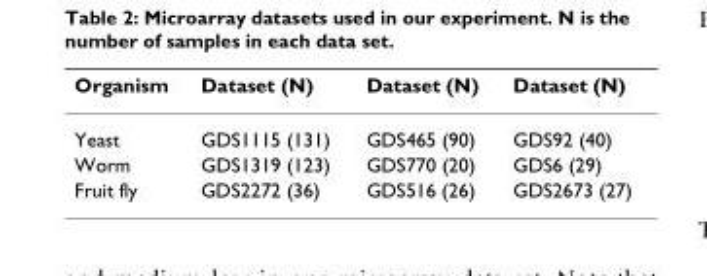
<table><thead><tr><td>Organism</td><td>Dataset (N)</td><td>Dataset (N)</td><td>Dataset (N)</td></tr></thead><tbody><tr><td>Yeast</td><td>GDS1115 (131)</td><td>GDS465 (90)</td><td>GDS92 (40)</td></tr><tr><td>Worm</td><td>GDS1319 (123)</td><td>GDS770 (20)</td><td>GDS6 (29)</td></tr><tr><td>Fruit fly</td><td>GDS2272 (36)</td><td>GDS516 (26)</td><td>GDS2673 (27)</td></tr></tbody></table>